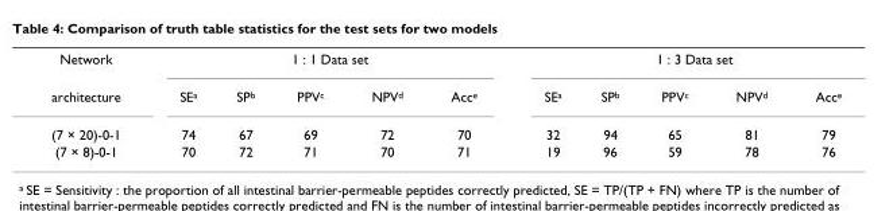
<table><tbody><tr><td>Network</td><td colspan="5">1 : 1 Data set</td><td colspan="5">1 : 3 Data set</td></tr><tr><td>architecture</td><td>SE<sup>a</sup></td><td>SP<sup>b</sup></td><td>PPV<sup>c</sup></td><td>NPV<sup>d</sup></td><td>Acc<sup>e</sup></td><td>SE<sup>a</sup></td><td>SP<sup>b</sup></td><td>PPV<sup>c</sup></td><td>NPV<sup>d</sup></td><td>Acc<sup>e</sup></td></tr><tr><td>(7 × 20)-0-1</td><td>74</td><td>67</td><td>69</td><td>72</td><td>70</td><td>32</td><td>94</td><td>65</td><td>81</td><td>79</td></tr><tr><td>(7 × 8)-0-1</td><td>70</td><td>72</td><td>71</td><td>70</td><td>71</td><td>19</td><td>96</td><td>59</td><td>78</td><td>76</td></tr></tbody></table>